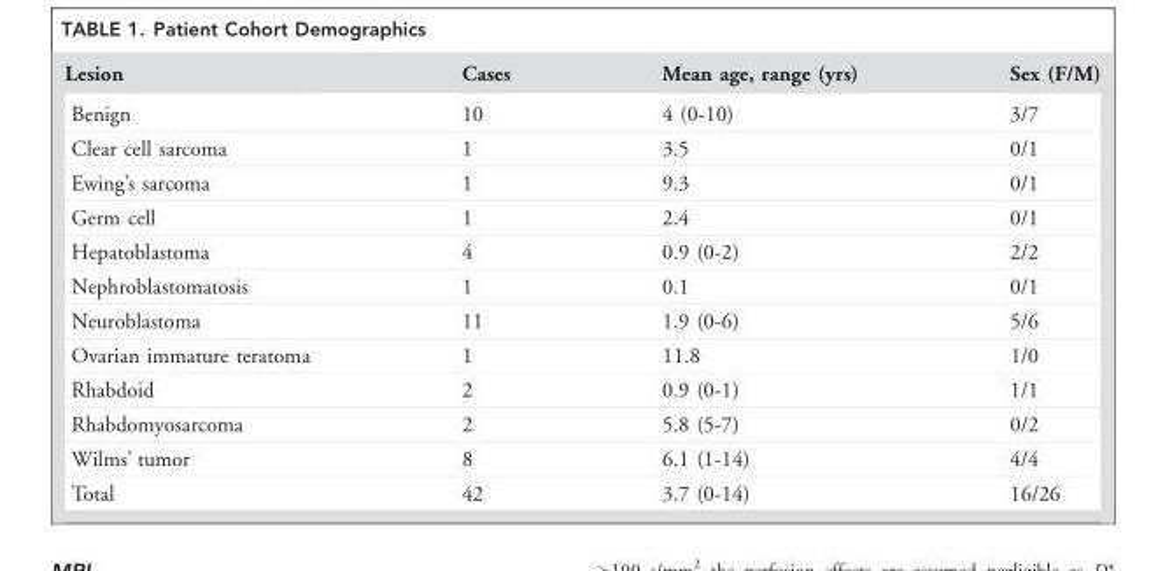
<table><thead><tr><td>Lesion</td><td>Cases</td><td>Mean age, range (yrs)</td><td>Sex (F/M)</td></tr></thead><tbody><tr><td>Benign</td><td>10</td><td>4 (0-10)</td><td>3/7</td></tr><tr><td>Clear cell sarcoma</td><td>1</td><td>3.5</td><td>0/1</td></tr><tr><td>Ewing’s sarcoma</td><td>1</td><td>9.3</td><td>0/1</td></tr><tr><td>Germ cell</td><td>1</td><td>2.4</td><td>0/1</td></tr><tr><td>Hepatoblastoma</td><td>4</td><td>0.9 (0-2)</td><td>2/2</td></tr><tr><td>Nephroblastomatosis</td><td>1</td><td>0.1</td><td>0/1</td></tr><tr><td>Neuroblastoma</td><td>11</td><td>1.9 (0-6)</td><td>5/6</td></tr><tr><td>Ovarian immature teratoma</td><td>1</td><td>11.8</td><td>1/0</td></tr><tr><td>Rhabdoid</td><td>2</td><td>0.9 (0-1)</td><td>1/1</td></tr><tr><td>Rhabdomyosarcoma</td><td>2</td><td>5.8 (5-7)</td><td>0/2</td></tr><tr><td>Wilms’ tumor</td><td>8</td><td>6.1 (1-14)</td><td>4/4</td></tr><tr><td>Total</td><td>42</td><td>3.7 (0-14)</td><td>16/26</td></tr></tbody></table>